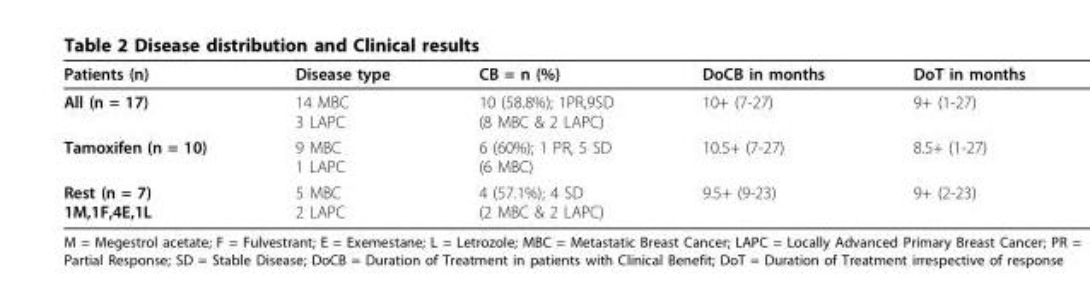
<table><thead><tr><td>Patients (n)</td><td>Disease type</td><td>CB = n (%)</td><td>DoCB in months</td><td>DoT in months</td></tr></thead><tbody><tr><td>All (n = 17)</td><td>14 MBC 3 LAPC</td><td>10 (58.8%); 1PR,9SD (8 MBC &amp; 2 LAPC)</td><td>10+ (7-27)</td><td>9+ (1-27)</td></tr><tr><td>Tamoxifen (n = 10)</td><td>9 MBC 1 LAPC</td><td>6 (60%); 1 PR, 5 SD (6 MBC)</td><td>10.5+ (7-27)</td><td>8.5+ (1-27)</td></tr><tr><td>Rest (n = 7) 1M,1F,4E,1L</td><td>5 MBC 2 LAPC</td><td>4 (57.1%); 4 SD (2 MBC &amp; 2 LAPC)</td><td>9.5+ (9-23)</td><td>9+ (2-23)</td></tr></tbody></table>